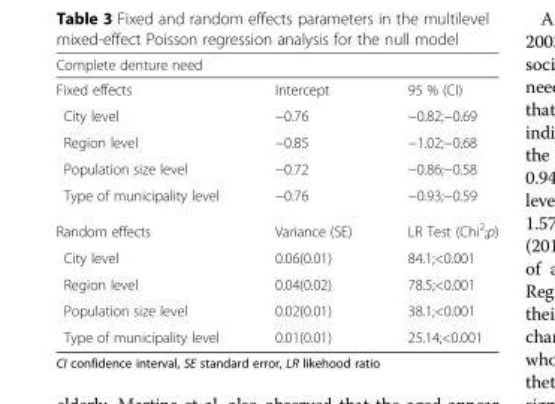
<table><thead><tr><td colspan="3">Complete denture need</td></tr><tr><td>Fixed effects</td><td>Intercept</td><td>95 % (CI)</td></tr></thead><tbody><tr><td>City level</td><td>−0.76</td><td>−0.82;−0.69</td></tr><tr><td>Region level</td><td>−0.85</td><td>−1.02;−0.68</td></tr><tr><td>Population size level</td><td>−0.72</td><td>−0.86;−0.58</td></tr><tr><td>Type of municipality level</td><td>−0.76</td><td>−0.93;−0.59</td></tr><tr><td>Random effects</td><td>Variance (SE)</td><td>LR Test (Chi<sup>2</sup>;p)</td></tr><tr><td>City level</td><td>0.06(0.01)</td><td>84.1;&lt;0.001</td></tr><tr><td>Region level</td><td>0.04(0.02)</td><td>78.5;&lt;0.001</td></tr><tr><td>Population size level</td><td>0.02(0.01)</td><td>38.1;&lt;0.001</td></tr><tr><td>Type of municipality level</td><td>0.01(0.01)</td><td>25.14;&lt;0.001</td></tr></tbody></table>